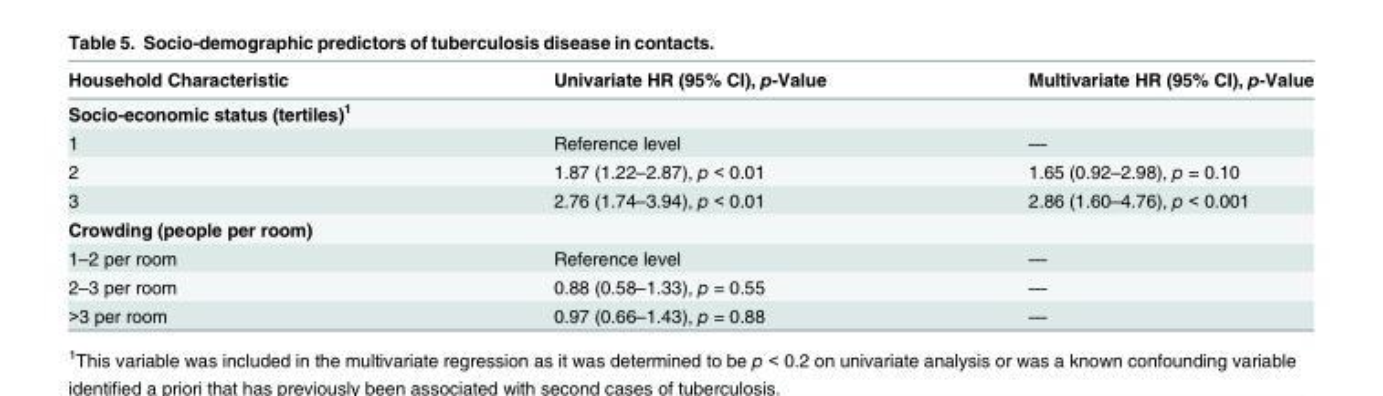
<table><thead><tr><td>Household Characteristic</td><td>Univariate HR (95% CI), p-Value</td><td>Multivariate HR (95% CI), p-Value</td></tr></thead><tbody><tr><td colspan="3">Socio-economic status (tertiles)<sup>1</sup></td></tr><tr><td>1</td><td>Reference level</td><td>—</td></tr><tr><td>2</td><td>1.87 (1.22–2.87), p &lt; 0.01</td><td>1.65 (0.92–2.98), p = 0.10</td></tr><tr><td>3</td><td>2.76 (1.74–3.94), p &lt; 0.01</td><td>2.86 (1.60–4.76), p &lt; 0.001</td></tr><tr><td colspan="3">Crowding (people per room)</td></tr><tr><td>1–2 per room</td><td>Reference level</td><td>—</td></tr><tr><td>2–3 per room</td><td>0.88 (0.58–1.33), p = 0.55</td><td>—</td></tr><tr><td>&gt;3 per room</td><td>0.97 (0.66–1.43), p = 0.88</td><td>—</td></tr></tbody></table>